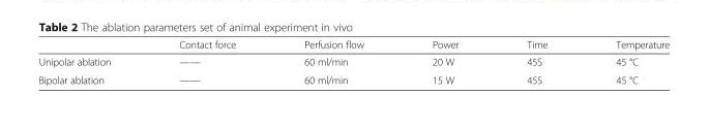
<table><thead><tr><td></td><td>Contact force</td><td>Perfusion flow</td><td>Power</td><td>Time</td><td>Temperature</td></tr></thead><tbody><tr><td>Unipolar ablation</td><td>——</td><td>60 ml/min</td><td>20 W</td><td>45S</td><td>45 °C</td></tr><tr><td>Bipolar ablation</td><td>——</td><td>60 ml/min</td><td>15 W</td><td>45S</td><td>45 °C</td></tr></tbody></table>